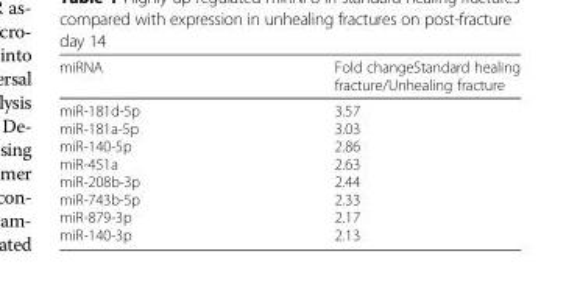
<table><thead><tr><td>miRNA</td><td>Fold changeStandard healing fracture/Unhealing fracture</td></tr></thead><tbody><tr><td>miR-181d-5p miR-181a-5p miR-140-5p miR-451a miR-208b-3p miR-743b-5p miR-879-3p miR-140-3p</td><td>3.57 3.03 2.86 2.63 2.44 2.33 2.17 2.13</td></tr></tbody></table>